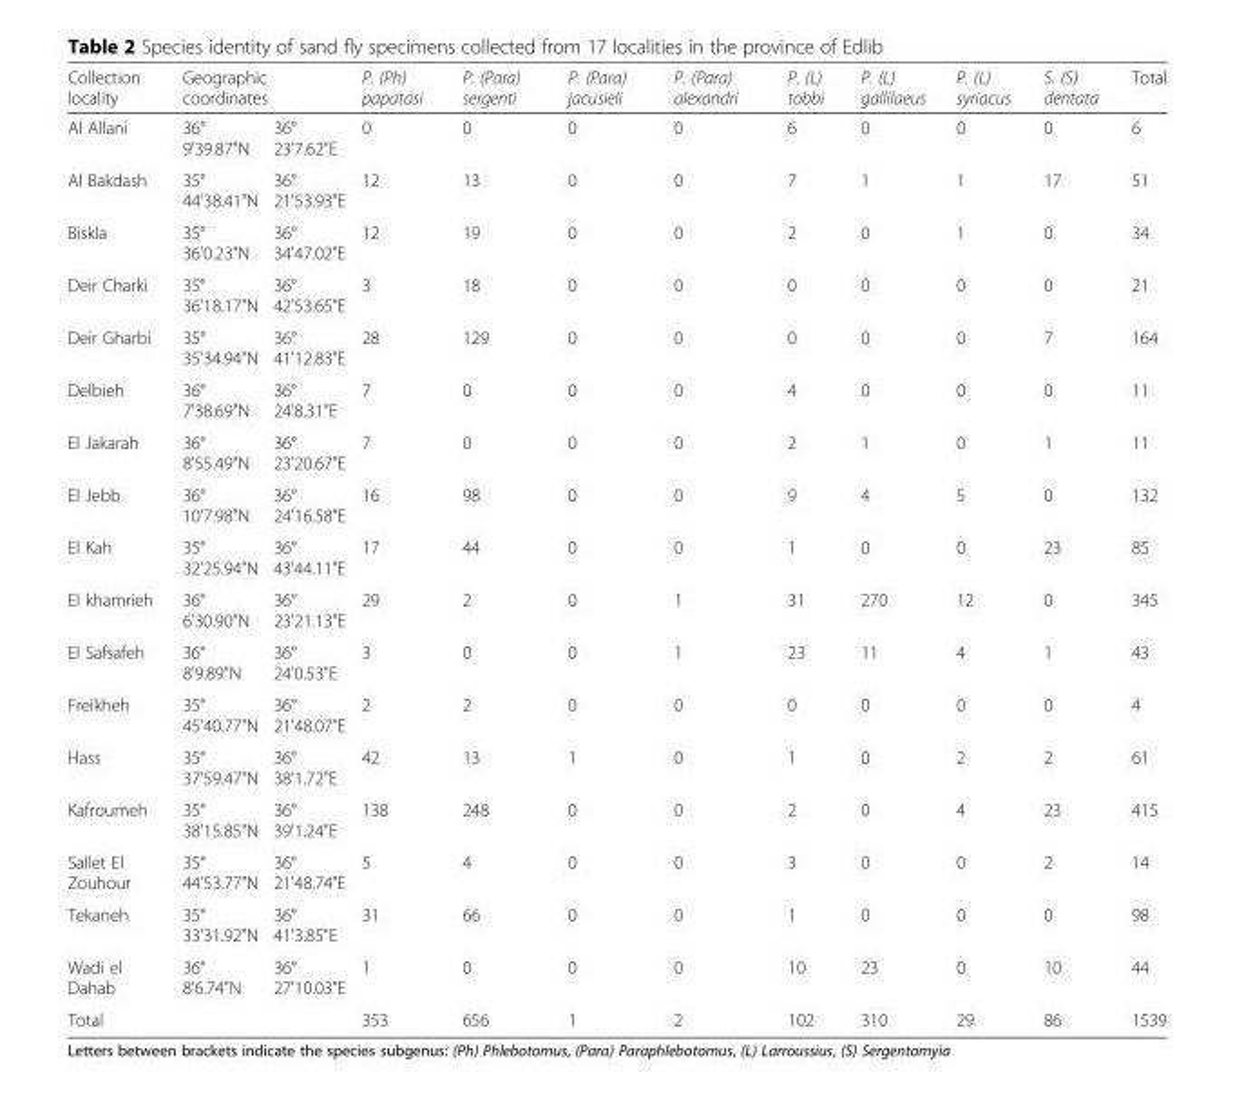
<table><thead><tr><td rowspan="2">Collection locality Al Allani</td><td colspan="2">Geographic coordinates</td><td rowspan="2">P. (Ph) papatasi 0</td><td rowspan="2">P. (Para) sergenti 0</td><td rowspan="2">P. (Para) jacusieli 0</td><td rowspan="2">P. (Para) alexandri 0</td><td rowspan="2">P. (L) tobbi 6</td><td rowspan="2">P. (L) gallilaeus 0</td><td rowspan="2">P. (L) syriacus 0</td><td rowspan="2">S. (S) dentata 0</td><td rowspan="2">Total 6</td></tr><tr><td>36° 9&#x27;39.87&quot;N</td><td>36° 23&#x27;7.62&quot;E</td></tr></thead><tbody><tr><td>Al Bakdash</td><td>35° 44&#x27;38.41&quot;N</td><td>36° 21&#x27;53.93&quot;E</td><td>12</td><td>13</td><td>0</td><td>0</td><td>7</td><td>1</td><td>1</td><td>17</td><td>51</td></tr><tr><td>Biskla</td><td>35° 36&#x27;0.23&quot;N</td><td>36° 34&#x27;47.02&quot;E</td><td>12</td><td>19</td><td>0</td><td>0</td><td>2</td><td>0</td><td>1</td><td>0</td><td>34</td></tr><tr><td>Deir Charki</td><td>35° 36&#x27;18.17&quot;N</td><td>36° 42&#x27;53.65&quot;E</td><td>3</td><td>18</td><td>0</td><td>0</td><td>0</td><td>0</td><td>0</td><td>0</td><td>21</td></tr><tr><td>Deir Gharbi</td><td>35° 35&#x27;34.94&quot;N</td><td>36° 41&#x27;12.83&quot;E</td><td>28</td><td>129</td><td>0</td><td>0</td><td>0</td><td>0</td><td>0</td><td>7</td><td>164</td></tr><tr><td>Delbieh</td><td>36° 7&#x27;38.69&quot;N</td><td>36° 24&#x27;8.31&quot;E</td><td>7</td><td>0</td><td>0</td><td>0</td><td>4</td><td>0</td><td>0</td><td>0</td><td>11</td></tr><tr><td>El Jakarah</td><td>36° 8&#x27;55.49&quot;N</td><td>36° 23&#x27;20.67&quot;E</td><td>7</td><td>0</td><td>0</td><td>0</td><td>2</td><td>1</td><td>0</td><td>1</td><td>11</td></tr><tr><td>El Jebb</td><td>36° 10&#x27;7.98&quot;N</td><td>36° 24&#x27;16.58&quot;E</td><td>16</td><td>98</td><td>0</td><td>0</td><td>9</td><td>4</td><td>5</td><td>0</td><td>132</td></tr><tr><td>El Kah</td><td>35° 32&#x27;25.94&quot;N</td><td>36° 43&#x27;44.11&quot;E</td><td>17</td><td>44</td><td>0</td><td>0</td><td>1</td><td>0</td><td>0</td><td>23</td><td>85</td></tr><tr><td>El khamrieh</td><td>36° 6&#x27;30.90&quot;N</td><td>36° 23&#x27;21.13&quot;E</td><td>29</td><td>2</td><td>0</td><td>1</td><td>31</td><td>270</td><td>12</td><td>0</td><td>345</td></tr><tr><td>El Safsafeh</td><td>36° 8&#x27;9.89&quot;N</td><td>36° 24&#x27;0.53&quot;E</td><td>3</td><td>0</td><td>0</td><td>1</td><td>23</td><td>11</td><td>4</td><td>1</td><td>43</td></tr><tr><td>Freikheh</td><td>35° 45&#x27;40.77&quot;N</td><td>36° 21&#x27;48.07&quot;E</td><td>2</td><td>2</td><td>0</td><td>0</td><td>0</td><td>0</td><td>0</td><td>0</td><td>4</td></tr><tr><td>Hass</td><td>35° 37&#x27;59.47&quot;N</td><td>36° 38&#x27;1.72&quot;E</td><td>42</td><td>13</td><td>1</td><td>0</td><td>1</td><td>0</td><td>2</td><td>2</td><td>61</td></tr><tr><td>Kafroumeh</td><td>35° 38&#x27;15.85&quot;N</td><td>36° 39&#x27;1.24&quot;E</td><td>138</td><td>248</td><td>0</td><td>0</td><td>2</td><td>0</td><td>4</td><td>23</td><td>415</td></tr><tr><td>Sallet El Zouhour</td><td>35° 44&#x27;53.77&quot;N</td><td>36° 21&#x27;48.74&quot;E</td><td>5</td><td>4</td><td>0</td><td>0</td><td>3</td><td>0</td><td>0</td><td>2</td><td>14</td></tr><tr><td>Tekaneh</td><td>35° 33&#x27;31.92&quot;N</td><td>36° 41&#x27;3.85&quot;E</td><td>31</td><td>66</td><td>0</td><td>0</td><td>1</td><td>0</td><td>0</td><td>0</td><td>98</td></tr><tr><td>Wadi el Dahab</td><td>36° 8&#x27;6.74&quot;N</td><td>36° 27&#x27;10.03&quot;E</td><td>1</td><td>0</td><td>0</td><td>0</td><td>10</td><td>23</td><td>0</td><td>10</td><td>44</td></tr><tr><td>Total</td><td></td><td></td><td>353</td><td>656</td><td>1</td><td>2</td><td>102</td><td>310</td><td>29</td><td>86</td><td>1539</td></tr></tbody></table>